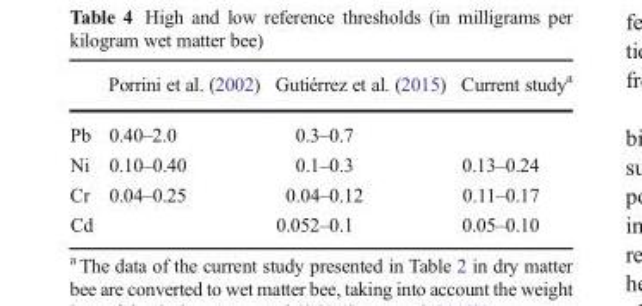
<table><thead><tr><td></td><td>Porrini et al. (2002)</td><td>Gutiérrez et al. (2015)</td><td>Current study<sup>a</sup></td></tr></thead><tbody><tr><td>Pb</td><td>0.40–2.0</td><td>0.3–0.7</td><td></td></tr><tr><td>Ni</td><td>0.10–0.40</td><td>0.1–0.3</td><td>0.13–0.24</td></tr><tr><td>Cr</td><td>0.04–0.25</td><td>0.04–0.12</td><td>0.11–0.17</td></tr><tr><td>Cd</td><td></td><td>0.052–0.1</td><td>0.05–0.10</td></tr></tbody></table>